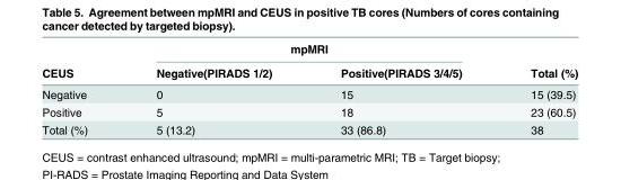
<table><thead><tr><td rowspan="2">CEUS</td><td colspan="2">mpMRI</td><td rowspan="2">Total (%)</td></tr><tr><td>Negative(PIRADS 1/2)</td><td>Positive(PIRADS 3/4/5)</td></tr></thead><tbody><tr><td>Negative</td><td>0</td><td>15</td><td>15 (39.5)</td></tr><tr><td>Positive</td><td>5</td><td>18</td><td>23 (60.5)</td></tr><tr><td>Total (%)</td><td>5 (13.2)</td><td>33 (86.8)</td><td>38</td></tr></tbody></table>